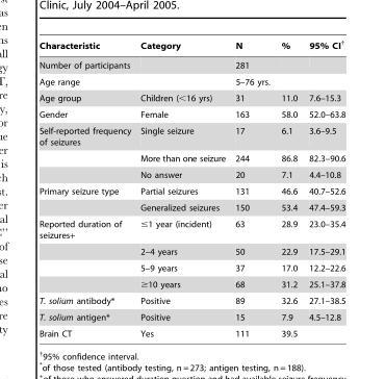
<table><thead><tr><td>Characteristic</td><td>Category</td><td>N</td><td>%</td><td>95% CI†</td></tr></thead><tbody><tr><td>Number of participants</td><td></td><td>281</td><td></td><td></td></tr><tr><td>Age range</td><td></td><td>5–76 yrs.</td><td></td><td></td></tr><tr><td>Age group</td><td>Children (&lt;16 yrs)</td><td>31</td><td>11.0</td><td>7.6–15.3</td></tr><tr><td>Gender</td><td>Female</td><td>163</td><td>58.0</td><td>52.0–63.8</td></tr><tr><td rowspan="3">Self-reported frequency of seizures</td><td>Single seizure</td><td>17</td><td>6.1</td><td>3.6–9.5</td></tr><tr><td>More than one seizure</td><td>244</td><td>86.8</td><td>82.3–90.6</td></tr><tr><td>No answer</td><td>20</td><td>7.1</td><td>4.4–10.8</td></tr><tr><td rowspan="2">Primary seizure type</td><td>Partial seizures</td><td>131</td><td>46.6</td><td>40.7–52.6</td></tr><tr><td>Generalized seizures</td><td>150</td><td>53.4</td><td>47.4–59.3</td></tr><tr><td rowspan="4">Reported duration of seizures+</td><td>≤1 year (incident)</td><td>63</td><td>28.9</td><td>23.0–35.4</td></tr><tr><td>2–4 years</td><td>50</td><td>22.9</td><td>17.5–29.1</td></tr><tr><td>5–9 years</td><td>37</td><td>17.0</td><td>12.2–22.6</td></tr><tr><td>≥10 years</td><td>68</td><td>31.2</td><td>25.1–37.8</td></tr><tr><td>T. solium antibody*</td><td>Positive</td><td>89</td><td>32.6</td><td>27.1–38.5</td></tr><tr><td>T. solium antigen*</td><td>Positive</td><td>15</td><td>7.9</td><td>4.5–12.8</td></tr><tr><td>Brain CT</td><td>Yes</td><td>111</td><td>39.5</td><td></td></tr></tbody></table>